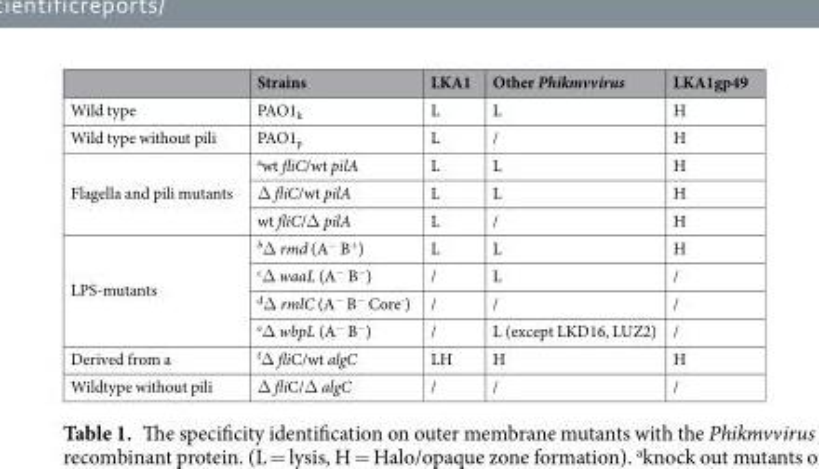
<table><thead><tr><td></td><td>Strains</td><td>LKA1</td><td>Other Phikmvvirus</td><td>LKA1gp49</td></tr></thead><tbody><tr><td>Wild type</td><td>PAO1<sub>k</sub></td><td>L</td><td>L</td><td>H</td></tr><tr><td>Wild type without pili</td><td>PAO1<sub>p</sub></td><td>L</td><td>/</td><td>H</td></tr><tr><td rowspan="3">Flagella and pili mutants</td><td><sup>a</sup>wt fliC/wt pilA</td><td>L</td><td>L</td><td>H</td></tr><tr><td>Δ fliC/wt pilA</td><td>L</td><td>L</td><td>H</td></tr><tr><td>wt fliC/Δ pilA</td><td>L</td><td>/</td><td>H</td></tr><tr><td rowspan="4">LPS-mutants</td><td><sup>b</sup>Δ rmd (A<sup>−</sup> B<sup>+</sup>)</td><td>L</td><td>L</td><td>H</td></tr><tr><td><sup>c</sup>Δ waaL (A<sup>−</sup> B<sup>−</sup>)</td><td>/</td><td>L</td><td>/</td></tr><tr><td><sup>d</sup>Δ rmlC (A<sup>−</sup> B<sup>−</sup> Core<sup>-</sup>)</td><td>/</td><td>/</td><td>/</td></tr><tr><td><sup>e</sup>Δ wbpL (A<sup>−</sup> B<sup>−</sup>)</td><td>/</td><td>L (except LKD16, LUZ2)</td><td>/</td></tr><tr><td>Derived from a</td><td><sup>f</sup>Δ fliC/wt algC</td><td>LH</td><td>H</td><td>H</td></tr><tr><td>Wildtype without pili</td><td>Δ fliC/Δ algC</td><td>/</td><td>/</td><td>/</td></tr></tbody></table>